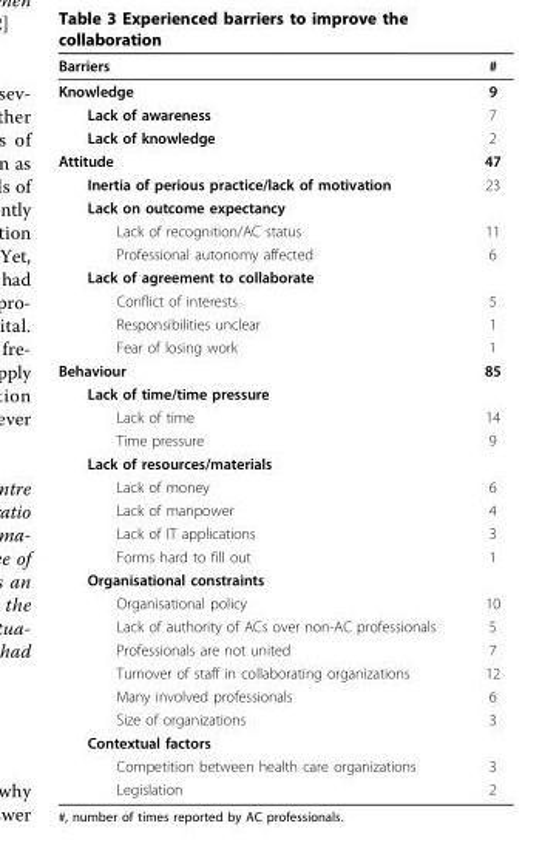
<table><thead><tr><td>Barriers</td><td>#</td></tr></thead><tbody><tr><td>Knowledge</td><td>9</td></tr><tr><td>Lack of awareness</td><td>7</td></tr><tr><td>Lack of knowledge</td><td>2</td></tr><tr><td>Attitude</td><td>47</td></tr><tr><td>Inertia of perious practice/lack of motivation</td><td>23</td></tr><tr><td colspan="2">Lack on outcome expectancy</td></tr><tr><td>Lack of recognition/AC status</td><td>11</td></tr><tr><td>Professional autonomy affected</td><td>6</td></tr><tr><td colspan="2">Lack of agreement to collaborate</td></tr><tr><td>Conflict of interests</td><td>5</td></tr><tr><td>Responsibilities unclear</td><td>1</td></tr><tr><td>Fear of losing work</td><td>1</td></tr><tr><td>Behaviour</td><td>85</td></tr><tr><td colspan="2">Lack of time/time pressure</td></tr><tr><td>Lack of time</td><td>14</td></tr><tr><td>Time pressure</td><td>9</td></tr><tr><td colspan="2">Lack of resources/materials</td></tr><tr><td>Lack of money</td><td>6</td></tr><tr><td>Lack of manpower</td><td>4</td></tr><tr><td>Lack of IT applications</td><td>3</td></tr><tr><td>Forms hard to fill out</td><td>1</td></tr><tr><td colspan="2">Organisational constraints</td></tr><tr><td>Organisational policy</td><td>10</td></tr><tr><td>Lack of authority of ACs over non-AC professionals</td><td>5</td></tr><tr><td>Professionals are not united</td><td>7</td></tr><tr><td>Turnover of staff in collaborating organizations</td><td>12</td></tr><tr><td>Many involved professionals</td><td>6</td></tr><tr><td>Size of organizations</td><td>3</td></tr><tr><td colspan="2">Contextual factors</td></tr><tr><td>Competition between health care organizations</td><td>3</td></tr><tr><td>Legislation</td><td>2</td></tr></tbody></table>